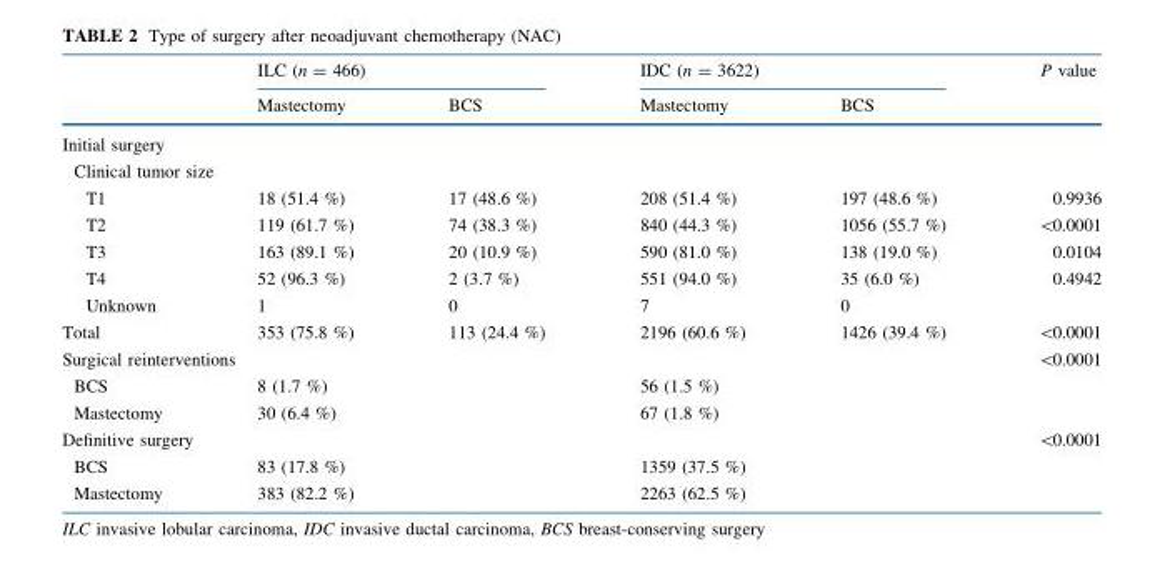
<table><thead><tr><td rowspan="2"></td><td colspan="2">ILC (n = 466)</td><td colspan="2">IDC (n = 3622)</td><td rowspan="2">P value</td></tr><tr><td>Mastectomy</td><td>BCS</td><td>Mastectomy</td><td>BCS</td></tr></thead><tbody><tr><td colspan="6">Initial surgery</td></tr><tr><td colspan="6">Clinical tumor size</td></tr><tr><td>T1</td><td>18 (51.4 %)</td><td>17 (48.6 %)</td><td>208 (51.4 %)</td><td>197 (48.6 %)</td><td>0.9936</td></tr><tr><td>T2</td><td>119 (61.7 %)</td><td>74 (38.3 %)</td><td>840 (44.3 %)</td><td>1056 (55.7 %)</td><td>&lt;0.0001</td></tr><tr><td>T3</td><td>163 (89.1 %)</td><td>20 (10.9 %)</td><td>590 (81.0 %)</td><td>138 (19.0 %)</td><td>0.0104</td></tr><tr><td>T4</td><td>52 (96.3 %)</td><td>2 (3.7 %)</td><td>551 (94.0 %)</td><td>35 (6.0 %)</td><td>0.4942</td></tr><tr><td>Unknown</td><td>1</td><td>0</td><td>7</td><td>0</td><td></td></tr><tr><td>Total</td><td>353 (75.8 %)</td><td>113 (24.4 %)</td><td>2196 (60.6 %)</td><td>1426 (39.4 %)</td><td>&lt;0.0001</td></tr><tr><td colspan="5">Surgical reinterventions</td><td rowspan="3">&lt;0.0001</td></tr><tr><td>BCS</td><td>8 (1.7 %)</td><td></td><td>56 (1.5 %)</td><td></td></tr><tr><td>Mastectomy</td><td>30 (6.4 %)</td><td></td><td>67 (1.8 %)</td><td></td></tr><tr><td colspan="5">Definitive surgery</td><td rowspan="3">&lt;0.0001</td></tr><tr><td>BCS</td><td>83 (17.8 %)</td><td></td><td>1359 (37.5 %)</td><td></td></tr><tr><td>Mastectomy</td><td>383 (82.2 %)</td><td></td><td>2263 (62.5 %)</td><td></td></tr></tbody></table>